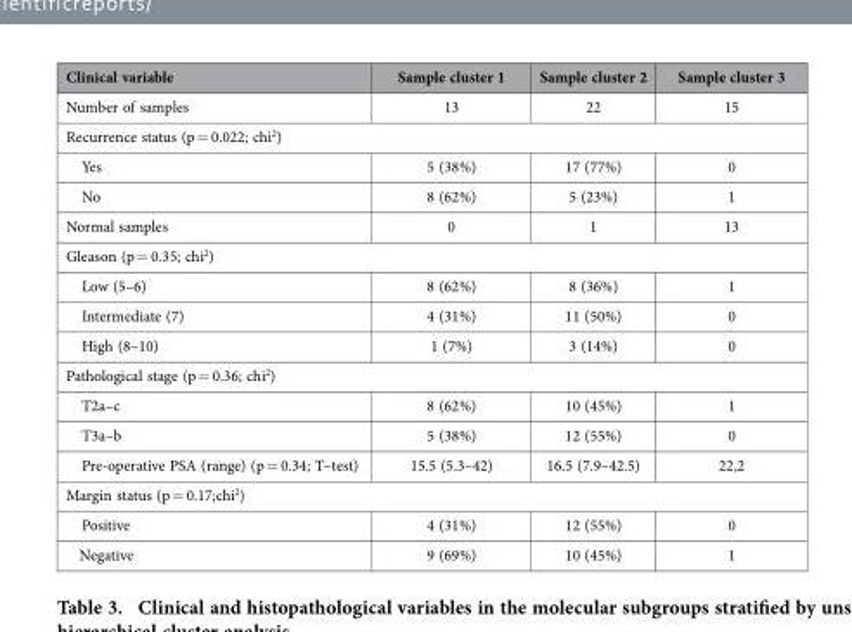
<table><thead><tr><td>Clinical variable</td><td>Sample cluster 1</td><td>Sample cluster 2</td><td>Sample cluster 3</td></tr></thead><tbody><tr><td>Number of samples</td><td>13</td><td>22</td><td>15</td></tr><tr><td colspan="4">Recurrence status (p = 0.022; chi<sup>2</sup>)</td></tr><tr><td>Yes</td><td>5 (38%)</td><td>17 (77%)</td><td>0</td></tr><tr><td>No</td><td>8 (62%)</td><td>5 (23%)</td><td>1</td></tr><tr><td>Normal samples</td><td>0</td><td>1</td><td>13</td></tr><tr><td colspan="4">Gleason (p = 0.35; chi<sup>2</sup>)</td></tr><tr><td>Low (5–6)</td><td>8 (62%)</td><td>8 (36%)</td><td>1</td></tr><tr><td>Intermediate (7)</td><td>4 (31%)</td><td>11 (50%)</td><td>0</td></tr><tr><td>High (8–10)</td><td>1 (7%)</td><td>3 (14%)</td><td>0</td></tr><tr><td colspan="4">Pathological stage (p = 0.36; chi<sup>2</sup>)</td></tr><tr><td>T2a–c</td><td>8 (62%)</td><td>10 (45%)</td><td>1</td></tr><tr><td>T3a–b</td><td>5 (38%)</td><td>12 (55%)</td><td>0</td></tr><tr><td>Pre-operative PSA (range) (p = 0.34; T–test)</td><td>15.5 (5.3–42)</td><td>16.5 (7.9–42.5)</td><td>22,2</td></tr><tr><td colspan="4">Margin status (p = 0.17;chi<sup>2</sup>)</td></tr><tr><td>Positive</td><td>4 (31%)</td><td>12 (55%)</td><td>0</td></tr><tr><td>Negative</td><td>9 (69%)</td><td>10 (45%)</td><td>1</td></tr></tbody></table>